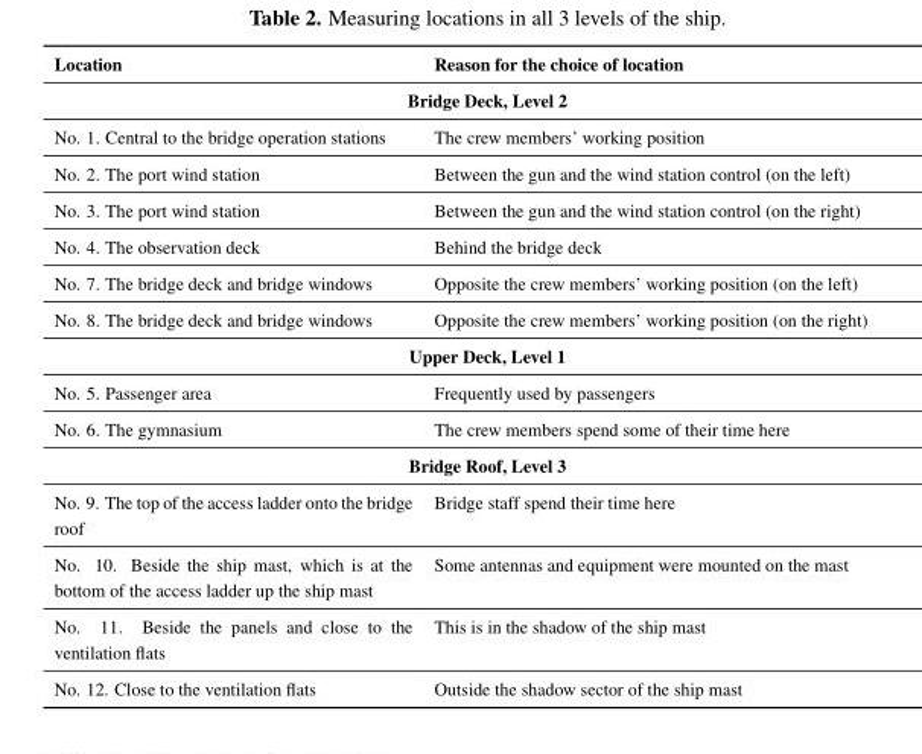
<table><thead><tr><td>Location</td><td>Reason for the choice of location</td></tr></thead><tbody><tr><td colspan="2">Bridge Deck, Level 2</td></tr><tr><td>No. 1. Central to the bridge operation stations</td><td>The crew members’ working position</td></tr><tr><td>No. 2. The port wind station</td><td>Between the gun and the wind station control (on the left)</td></tr><tr><td>No. 3. The port wind station</td><td>Between the gun and the wind station control (on the right)</td></tr><tr><td>No. 4. The observation deck</td><td>Behind the bridge deck</td></tr><tr><td>No. 7. The bridge deck and bridge windows</td><td>Opposite the crew members’ working position (on the left)</td></tr><tr><td>No. 8. The bridge deck and bridge windows</td><td>Opposite the crew members’ working position (on the right)</td></tr><tr><td colspan="2">Upper Deck, Level 1</td></tr><tr><td>No. 5. Passenger area</td><td>Frequently used by passengers</td></tr><tr><td>No. 6. The gymnasium</td><td>The crew members spend some of their time here</td></tr><tr><td colspan="2">Bridge Roof, Level 3</td></tr><tr><td>No. 9. The top of the access ladder onto the bridge roof</td><td>Bridge staff spend their time here</td></tr><tr><td>No. 10. Beside the ship mast, which is at the bottom of the access ladder up the ship mast</td><td>Some antennas and equipment were mounted on the mast</td></tr><tr><td>No. 11. Beside the panels and close to the ventilation flats</td><td>This is in the shadow of the ship mast</td></tr><tr><td>No. 12. Close to the ventilation flats</td><td>Outside the shadow sector of the ship mast</td></tr></tbody></table>